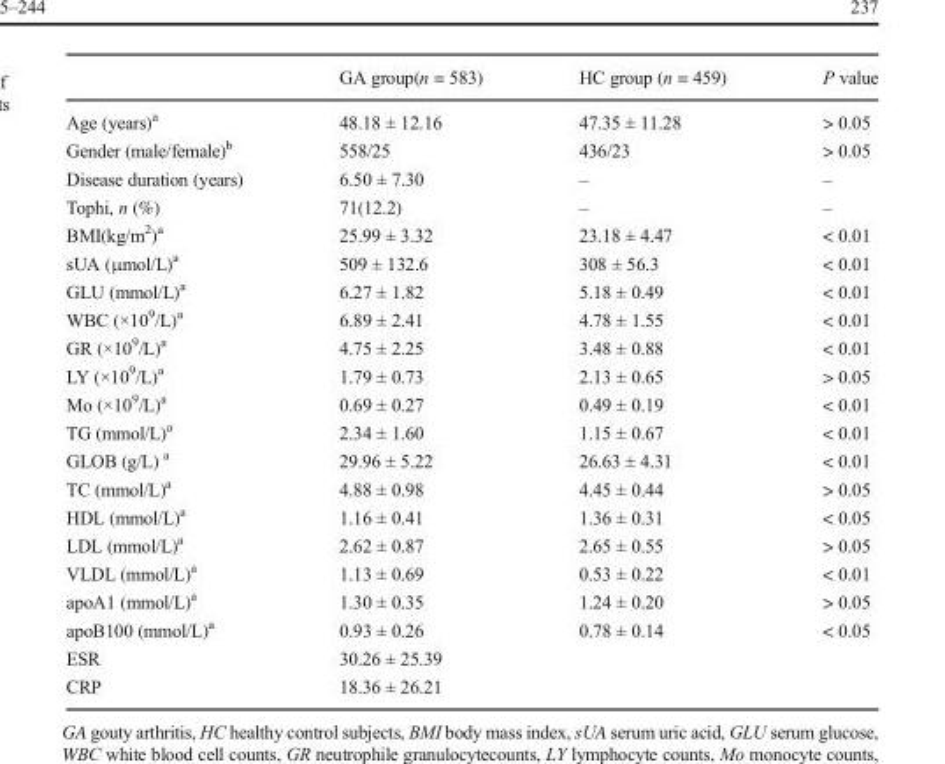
<table><thead><tr><td></td><td>GA group(n = 583)</td><td>HC group (n = 459)</td><td>P value</td></tr></thead><tbody><tr><td>Age (years)<sup>a</sup></td><td>48.18 ± 12.16</td><td>47.35 ± 11.28</td><td>&gt; 0.05</td></tr><tr><td>Gender (male/female)<sup>b</sup></td><td>558/25</td><td>436/23</td><td>&gt; 0.05</td></tr><tr><td>Disease duration (years)</td><td>6.50 ± 7.30</td><td>–</td><td>–</td></tr><tr><td>Tophi, n (%)</td><td>71(12.2)</td><td>–</td><td>–</td></tr><tr><td>BMI(kg/m<sup>2</sup>)<sup>a</sup></td><td>25.99 ± 3.32</td><td>23.18 ± 4.47</td><td>&lt; 0.01</td></tr><tr><td>sUA (μmol/L)<sup>a</sup></td><td>509 ± 132.6</td><td>308 ± 56.3</td><td>&lt; 0.01</td></tr><tr><td>GLU (mmol/L)<sup>a</sup></td><td>6.27 ± 1.82</td><td>5.18 ± 0.49</td><td>&lt; 0.01</td></tr><tr><td>WBC (×10<sup>9</sup>/L)<sup>a</sup></td><td>6.89 ± 2.41</td><td>4.78 ± 1.55</td><td>&lt; 0.01</td></tr><tr><td>GR (×10<sup>9</sup>/L)<sup>a</sup></td><td>4.75 ± 2.25</td><td>3.48 ± 0.88</td><td>&lt; 0.01</td></tr><tr><td>LY (×10<sup>9</sup>/L)<sup>a</sup></td><td>1.79 ± 0.73</td><td>2.13 ± 0.65</td><td>&gt; 0.05</td></tr><tr><td>Mo (×10<sup>9</sup>/L)<sup>a</sup></td><td>0.69 ± 0.27</td><td>0.49 ± 0.19</td><td>&lt; 0.01</td></tr><tr><td>TG (mmol/L)<sup>a</sup></td><td>2.34 ± 1.60</td><td>1.15 ± 0.67</td><td>&lt; 0.01</td></tr><tr><td>GLOB (g/L) <sup>a</sup></td><td>29.96 ± 5.22</td><td>26.63 ± 4.31</td><td>&lt; 0.01</td></tr><tr><td>TC (mmol/L)<sup>a</sup></td><td>4.88 ± 0.98</td><td>4.45 ± 0.44</td><td>&gt; 0.05</td></tr><tr><td>HDL (mmol/L)<sup>a</sup></td><td>1.16 ± 0.41</td><td>1.36 ± 0.31</td><td>&lt; 0.05</td></tr><tr><td>LDL (mmol/L)<sup>a</sup></td><td>2.62 ± 0.87</td><td>2.65 ± 0.55</td><td>&gt; 0.05</td></tr><tr><td>VLDL (mmol/L)<sup>a</sup></td><td>1.13 ± 0.69</td><td>0.53 ± 0.22</td><td>&lt; 0.01</td></tr><tr><td>apoA1 (mmol/L)<sup>a</sup></td><td>1.30 ± 0.35</td><td>1.24 ± 0.20</td><td>&gt; 0.05</td></tr><tr><td>apoB100 (mmol/L)<sup>a</sup></td><td>0.93 ± 0.26</td><td>0.78 ± 0.14</td><td>&lt; 0.05</td></tr><tr><td>ESR</td><td>30.26 ± 25.39</td><td></td><td></td></tr><tr><td>CRP</td><td>18.36 ± 26.21</td><td></td><td></td></tr></tbody></table>